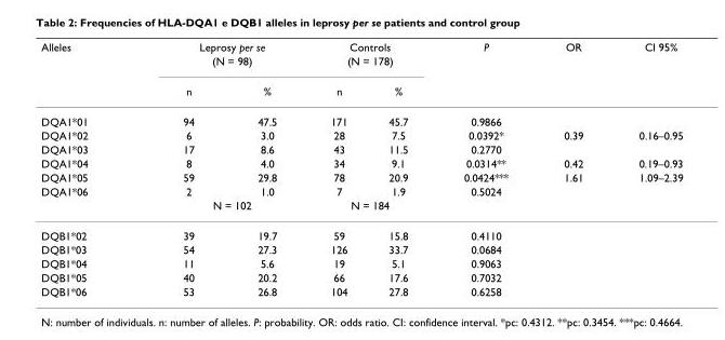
<table><thead><tr><td rowspan="3">Alleles</td><td rowspan="2" colspan="2">Leprosy per se (N = 98)</td><td rowspan="2" colspan="2">Controls (N = 178)</td><td rowspan="3">P</td><td rowspan="3">OR</td><td rowspan="3">CI 95%</td></tr><tr></tr><tr><td>n</td><td>%</td><td>n</td><td>%</td></tr></thead><tbody><tr><td>DQA1*01</td><td>94</td><td>47.5</td><td>171</td><td>45.7</td><td>0.9866</td><td></td><td></td></tr><tr><td>DQA1*02</td><td>6</td><td>3.0</td><td>28</td><td>7.5</td><td>0.0392*</td><td>0.39</td><td>0.16–0.95</td></tr><tr><td>DQA1*03</td><td>17</td><td>8.6</td><td>43</td><td>11.5</td><td>0.2770</td><td></td><td></td></tr><tr><td>DQA1*04</td><td>8</td><td>4.0</td><td>34</td><td>9.1</td><td>0.0314**</td><td>0.42</td><td>0.19–0.93</td></tr><tr><td>DQA1*05</td><td>59</td><td>29.8</td><td>78</td><td>20.9</td><td>0.0424***</td><td>1.61</td><td>1.09–2.39</td></tr><tr><td rowspan="2">DQA1*06</td><td>2</td><td>1.0</td><td>7</td><td>1.9</td><td>0.5024</td><td></td><td></td></tr><tr><td colspan="2">N = 102</td><td colspan="2">N = 184</td><td></td><td></td><td></td></tr><tr><td>DQB1*02</td><td>39</td><td>19.7</td><td>59</td><td>15.8</td><td>0.4110</td><td></td><td></td></tr><tr><td>DQB1*03</td><td>54</td><td>27.3</td><td>126</td><td>33.7</td><td>0.0684</td><td></td><td></td></tr><tr><td>DQB1*04</td><td>11</td><td>5.6</td><td>19</td><td>5.1</td><td>0.9063</td><td></td><td></td></tr><tr><td>DQB1*05</td><td>40</td><td>20.2</td><td>66</td><td>17.6</td><td>0.7032</td><td></td><td></td></tr><tr><td>DQB1*06</td><td>53</td><td>26.8</td><td>104</td><td>27.8</td><td>0.6258</td><td></td><td></td></tr></tbody></table>